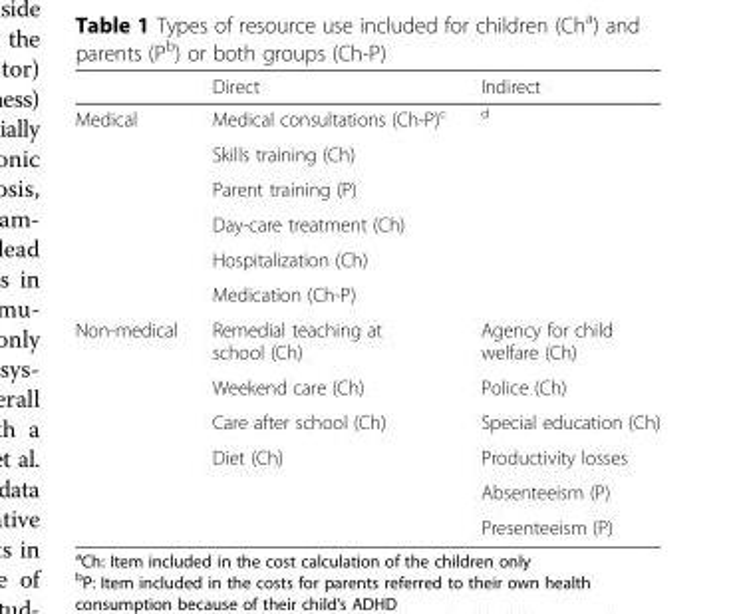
<table><thead><tr><td></td><td>Direct</td><td>Indirect</td></tr></thead><tbody><tr><td rowspan="6">Medical</td><td>Medical consultations (Ch-P)<sup>c</sup></td><td rowspan="6"><sup>d</sup></td></tr><tr><td>Skills training (Ch)</td></tr><tr><td>Parent training (P)</td></tr><tr><td>Day-care treatment (Ch)</td></tr><tr><td>Hospitalization (Ch)</td></tr><tr><td>Medication (Ch-P)</td></tr><tr><td rowspan="6">Non-medical</td><td>Remedial teaching at school (Ch)</td><td>Agency for child welfare (Ch)</td></tr><tr><td>Weekend care (Ch)</td><td>Police (Ch)</td></tr><tr><td>Care after school (Ch)</td><td>Special education (Ch)</td></tr><tr><td>Diet (Ch)</td><td>Productivity losses</td></tr><tr><td></td><td>Absenteeism (P)</td></tr><tr><td></td><td>Presenteeism (P)</td></tr></tbody></table>